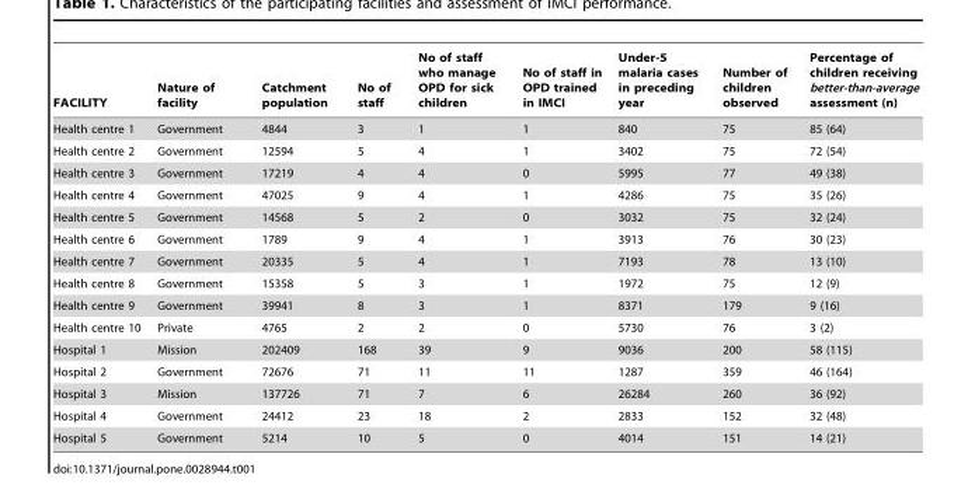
<table><thead><tr><td>FACILITY</td><td>Nature of facility</td><td>Catchment population</td><td>No of staff</td><td>No of staff who manage OPD for sick children</td><td>No of staff in OPD trained in IMCI</td><td>Under-5 malaria cases in preceding year</td><td>Number of children observed</td><td>Percentage of children receiving better-than-average assessment (n)</td></tr></thead><tbody><tr><td>Health centre 1</td><td>Government</td><td>4844</td><td>3</td><td>1</td><td>1</td><td>840</td><td>75</td><td>85 (64)</td></tr><tr><td>Health centre 2</td><td>Government</td><td>12594</td><td>5</td><td>4</td><td>1</td><td>3402</td><td>75</td><td>72 (54)</td></tr><tr><td>Health centre 3</td><td>Government</td><td>17219</td><td>4</td><td>4</td><td>0</td><td>5995</td><td>77</td><td>49 (38)</td></tr><tr><td>Health centre 4</td><td>Government</td><td>47025</td><td>9</td><td>4</td><td>1</td><td>4286</td><td>75</td><td>35 (26)</td></tr><tr><td>Health centre 5</td><td>Government</td><td>14568</td><td>5</td><td>2</td><td>0</td><td>3032</td><td>75</td><td>32 (24)</td></tr><tr><td>Health centre 6</td><td>Government</td><td>1789</td><td>9</td><td>4</td><td>1</td><td>3913</td><td>76</td><td>30 (23)</td></tr><tr><td>Health centre 7</td><td>Government</td><td>20335</td><td>5</td><td>4</td><td>1</td><td>7193</td><td>78</td><td>13 (10)</td></tr><tr><td>Health centre 8</td><td>Government</td><td>15358</td><td>5</td><td>3</td><td>1</td><td>1972</td><td>75</td><td>12 (9)</td></tr><tr><td>Health centre 9</td><td>Government</td><td>39941</td><td>8</td><td>3</td><td>1</td><td>8371</td><td>179</td><td>9 (16)</td></tr><tr><td>Health centre 10</td><td>Private</td><td>4765</td><td>2</td><td>2</td><td>0</td><td>5730</td><td>76</td><td>3 (2)</td></tr><tr><td>Hospital 1</td><td>Mission</td><td>202409</td><td>168</td><td>39</td><td>9</td><td>9036</td><td>200</td><td>58 (115)</td></tr><tr><td>Hospital 2</td><td>Government</td><td>72676</td><td>71</td><td>11</td><td>11</td><td>1287</td><td>359</td><td>46 (164)</td></tr><tr><td>Hospital 3</td><td>Mission</td><td>137726</td><td>71</td><td>7</td><td>6</td><td>26284</td><td>260</td><td>36 (92)</td></tr><tr><td>Hospital 4</td><td>Government</td><td>24412</td><td>23</td><td>18</td><td>2</td><td>2833</td><td>152</td><td>32 (48)</td></tr><tr><td>Hospital 5</td><td>Government</td><td>5214</td><td>10</td><td>5</td><td>0</td><td>4014</td><td>151</td><td>14 (21)</td></tr></tbody></table>